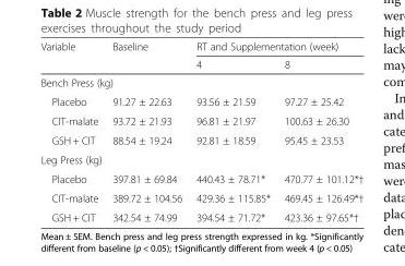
<table><thead><tr><td rowspan="2">Variable</td><td rowspan="2">Baseline</td><td colspan="2">RT and Supplementation (week)</td></tr><tr><td>4</td><td>8</td></tr></thead><tbody><tr><td colspan="4">Bench Press (kg)</td></tr><tr><td>Placebo</td><td>91.27 ± 22.63</td><td>93.56 ± 21.59</td><td>97.27 ± 25.42</td></tr><tr><td>CIT-malate</td><td>93.72 ± 21.93</td><td>96.81 ± 21.97</td><td>100.63 ± 26.30</td></tr><tr><td>GSH + CIT</td><td>88.54 ± 19.24</td><td>92.81 ± 18.59</td><td>95.45 ± 23.53</td></tr><tr><td colspan="4">Leg Press (kg)</td></tr><tr><td>Placebo</td><td>397.81 ± 69.84</td><td>440.43 ± 78.71*</td><td>470.77 ± 101.12*†</td></tr><tr><td>CIT-malate</td><td>389.72 ± 104.56</td><td>429.36 ± 115.85*</td><td>469.45 ± 126.49*†</td></tr><tr><td>GSH + CIT</td><td>342.54 ± 74.99</td><td>394.54 ± 71.72*</td><td>423.36 ± 97.65*†</td></tr></tbody></table>